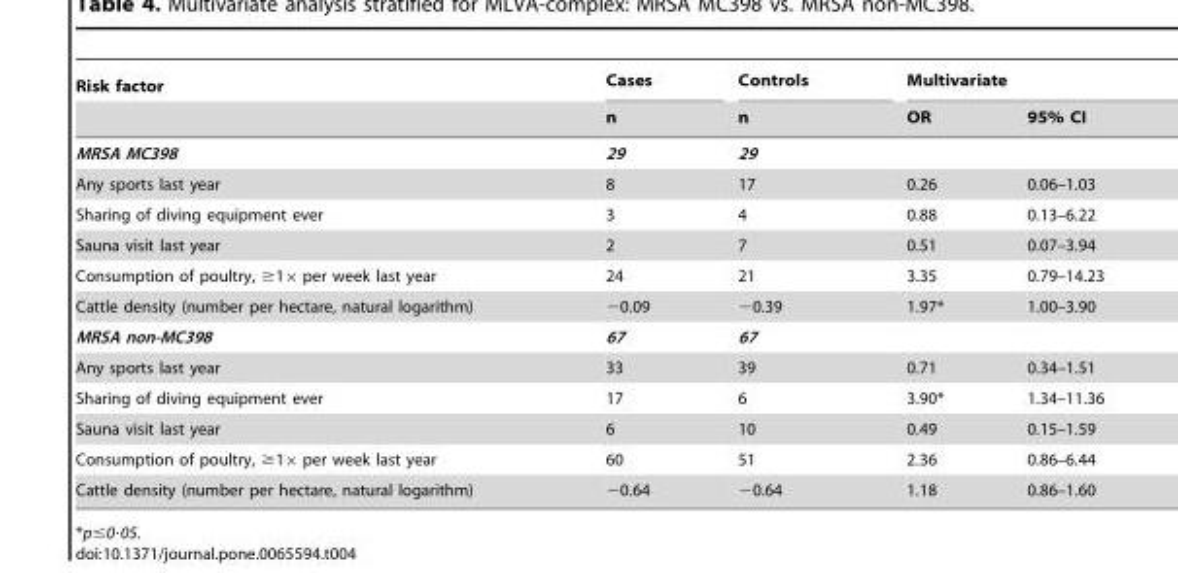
<table><thead><tr><td rowspan="2">Risk factor</td><td rowspan="2">Cases n</td><td rowspan="2">Controls n</td><td colspan="2">Multivariate</td></tr><tr><td>OR</td><td>95% CI</td></tr></thead><tbody><tr><td>MRSA MC398</td><td>29</td><td>29</td><td></td><td></td></tr><tr><td>Any sports last year</td><td>8</td><td>17</td><td>0.26</td><td>0.06–1.03</td></tr><tr><td>Sharing of diving equipment ever</td><td>3</td><td>4</td><td>0.88</td><td>0.13–6.22</td></tr><tr><td>Sauna visit last year</td><td>2</td><td>7</td><td>0.51</td><td>0.07–3.94</td></tr><tr><td>Consumption of poultry, ≥1× per week last year</td><td>24</td><td>21</td><td>3.35</td><td>0.79–14.23</td></tr><tr><td>Cattle density (number per hectare, natural logarithm)</td><td>−0.09</td><td>−0.39</td><td>1.97*</td><td>1.00–3.90</td></tr><tr><td>MRSA non-MC398</td><td>67</td><td>67</td><td></td><td></td></tr><tr><td>Any sports last year</td><td>33</td><td>39</td><td>0.71</td><td>0.34–1.51</td></tr><tr><td>Sharing of diving equipment ever</td><td>17</td><td>6</td><td>3.90*</td><td>1.34–11.36</td></tr><tr><td>Sauna visit last year</td><td>6</td><td>10</td><td>0.49</td><td>0.15–1.59</td></tr><tr><td>Consumption of poultry, ≥1× per week last year</td><td>60</td><td>51</td><td>2.36</td><td>0.86–6.44</td></tr><tr><td>Cattle density (number per hectare, natural logarithm)</td><td>−0.64</td><td>−0.64</td><td>1.18</td><td>0.86–1.60</td></tr></tbody></table>